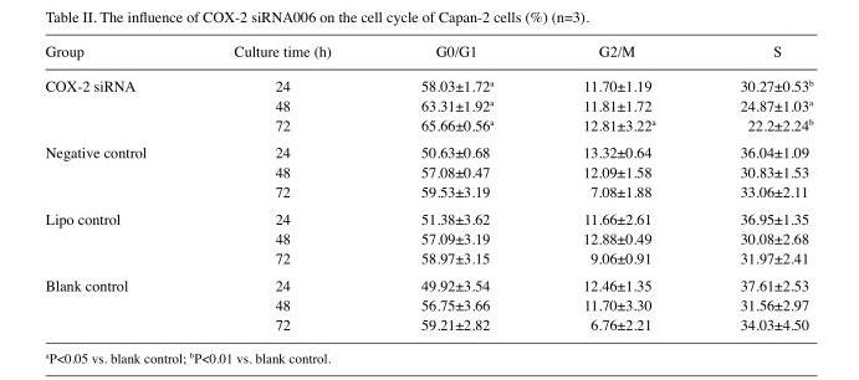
<table><thead><tr><td>Group</td><td>Culture time (h)</td><td>G0/G1</td><td>G2/M</td><td>S</td></tr></thead><tbody><tr><td rowspan="3">COX-2 siRNA</td><td>24</td><td>58.03±1.72<sup>a</sup></td><td>11.70±1.19</td><td>30.27±0.53<sup>b</sup></td></tr><tr><td>48</td><td>63.31±1.92<sup>a</sup></td><td>11.81±1.72</td><td>24.87±1.03<sup>a</sup></td></tr><tr><td>72</td><td>65.66±0.56<sup>a</sup></td><td>12.81±3.22<sup>a</sup></td><td>22.2±2.24<sup>b</sup></td></tr><tr><td rowspan="3">Negative control</td><td>24</td><td>50.63±0.68</td><td>13.32±0.64</td><td>36.04±1.09</td></tr><tr><td>48</td><td>57.08±0.47</td><td>12.09±1.58</td><td>30.83±1.53</td></tr><tr><td>72</td><td>59.53±3.19</td><td>7.08±1.88</td><td>33.06±2.11</td></tr><tr><td rowspan="3">Lipo control</td><td>24</td><td>51.38±3.62</td><td>11.66±2.61</td><td>36.95±1.35</td></tr><tr><td>48</td><td>57.09±3.19</td><td>12.88±0.49</td><td>30.08±2.68</td></tr><tr><td>72</td><td>58.97±3.15</td><td>9.06±0.91</td><td>31.97±2.41</td></tr><tr><td rowspan="3">Blank control</td><td>24</td><td>49.92±3.54</td><td>12.46±1.35</td><td>37.61±2.53</td></tr><tr><td>48</td><td>56.75±3.66</td><td>11.70±3.30</td><td>31.56±2.97</td></tr><tr><td>72</td><td>59.21±2.82</td><td>6.76±2.21</td><td>34.03±4.50</td></tr></tbody></table>